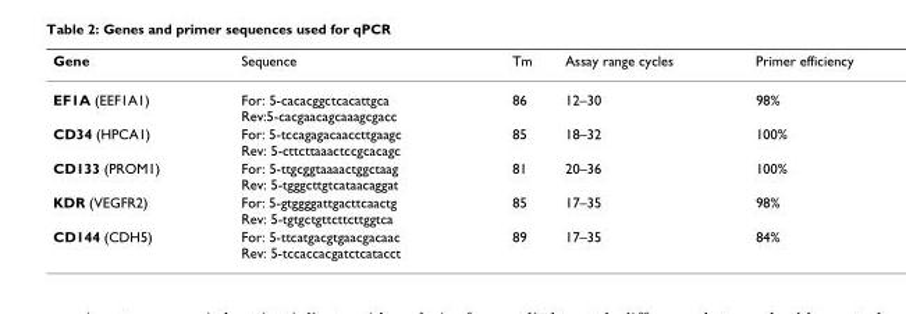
<table><thead><tr><td>Gene</td><td>Sequence</td><td>Tm</td><td>Assay range cycles</td><td>Primer efficiency</td></tr></thead><tbody><tr><td>EF1A (EEF1A1)</td><td>For: 5-cacacggctcacattgca Rev:5-cacgaacagcaaagcgacc</td><td>86</td><td>12–30</td><td>98%</td></tr><tr><td>CD34 (HPCA1)</td><td>For: 5-tccagagacaaccttgaagc Rev: 5-cttcttaaactccgcacagc</td><td>85</td><td>18–32</td><td>100%</td></tr><tr><td>CD133 (PROM1)</td><td>For: 5-ttgcggtaaaactggctaag Rev: 5-tgggcttgtcataacaggat</td><td>81</td><td>20–36</td><td>100%</td></tr><tr><td>KDR (VEGFR2)</td><td>For: 5-gtggggattgacttcaactg Rev: 5-tgtgctgttcttcttggtca</td><td>85</td><td>17–35</td><td>98%</td></tr><tr><td>CD144 (CDH5)</td><td>For: 5-ttcatgacgtgaacgacaac Rev: 5-tccaccacgatctcatacct</td><td>89</td><td>17–35</td><td>84%</td></tr></tbody></table>